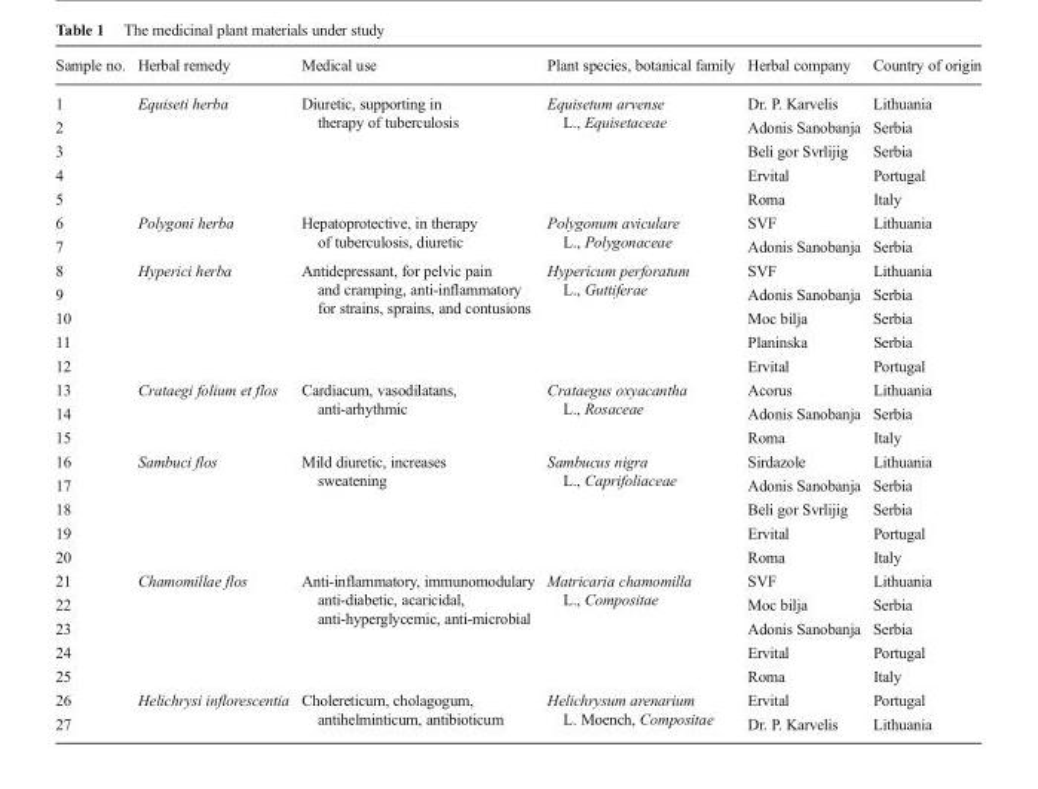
<table><thead><tr><td>Sample no.</td><td>Herbal remedy</td><td>Medical use</td><td>Plant species, botanical family</td><td>Herbal company</td><td>Country of origin</td></tr></thead><tbody><tr><td>1</td><td rowspan="5">Equiseti herba</td><td rowspan="5">Diuretic, supporting in therapy of tuberculosis</td><td rowspan="5">Equisetum arvense L., Equisetaceae</td><td>Dr. P. Karvelis</td><td>Lithuania</td></tr><tr><td>2</td><td>Adonis Sanobanja</td><td>Serbia</td></tr><tr><td>3</td><td>Beli gor Svrlijig</td><td>Serbia</td></tr><tr><td>4</td><td>Ervital</td><td>Portugal</td></tr><tr><td>5</td><td>Roma</td><td>Italy</td></tr><tr><td>6</td><td rowspan="2">Polygoni herba</td><td rowspan="2">Hepatoprotective, in therapy of tuberculosis, diuretic</td><td rowspan="2">Polygonum aviculare L., Polygonaceae</td><td>SVF</td><td>Lithuania</td></tr><tr><td>7</td><td>Adonis Sanobanja</td><td>Serbia</td></tr><tr><td>8</td><td rowspan="5">Hyperici herba</td><td rowspan="5">Antidepressant, for pelvic pain and cramping, anti-inflammatory for strains, sprains, and contusions</td><td rowspan="5">Hypericum perforatum L., Guttiferae</td><td>SVF</td><td>Lithuania</td></tr><tr><td>9</td><td>Adonis Sanobanja</td><td>Serbia</td></tr><tr><td>10</td><td>Moc bilja</td><td>Serbia</td></tr><tr><td>11</td><td>Planinska</td><td>Serbia</td></tr><tr><td>12</td><td>Ervital</td><td>Portugal</td></tr><tr><td>13</td><td rowspan="3">Crataegi folium et flos</td><td rowspan="3">Cardiacum, vasodilatans, anti-arhythmic</td><td rowspan="3">Crataegus oxyacantha L., Rosaceae</td><td>Acorus</td><td>Lithuania</td></tr><tr><td>14</td><td>Adonis Sanobanja</td><td>Serbia</td></tr><tr><td>15</td><td>Roma</td><td>Italy</td></tr><tr><td>16</td><td rowspan="5">Sambuci flos</td><td rowspan="5">Mild diuretic, increases sweatening</td><td rowspan="5">Sambucus nigra L., Caprifoliaceae</td><td>Sirdazole</td><td>Lithuania</td></tr><tr><td>17</td><td>Adonis Sanobanja</td><td>Serbia</td></tr><tr><td>18</td><td>Beli gor Svrlijig</td><td>Serbia</td></tr><tr><td>19</td><td>Ervital</td><td>Portugal</td></tr><tr><td>20</td><td>Roma</td><td>Italy</td></tr><tr><td>21</td><td rowspan="5">Chamomillae flos</td><td rowspan="5">Anti-inflammatory, immunomodulary anti-diabetic, acaricidal, anti-hyperglycemic, anti-microbial</td><td rowspan="5">Matricaria chamomilla L., Compositae</td><td>SVF</td><td>Lithuania</td></tr><tr><td>22</td><td>Moc bilja</td><td>Serbia</td></tr><tr><td>23</td><td>Adonis Sanobanja</td><td>Serbia</td></tr><tr><td>24</td><td>Ervital</td><td>Portugal</td></tr><tr><td>25</td><td>Roma</td><td>Italy</td></tr><tr><td>26</td><td rowspan="2">Helichrysi inflorescentia</td><td rowspan="2">Cholereticum, cholagogum, antihelminticum, antibioticum</td><td rowspan="2">Helichrysum arenarium L. Moench, Compositae</td><td>Ervital</td><td>Portugal</td></tr><tr><td>27</td><td>Dr. P. Karvelis</td><td>Lithuania</td></tr></tbody></table>